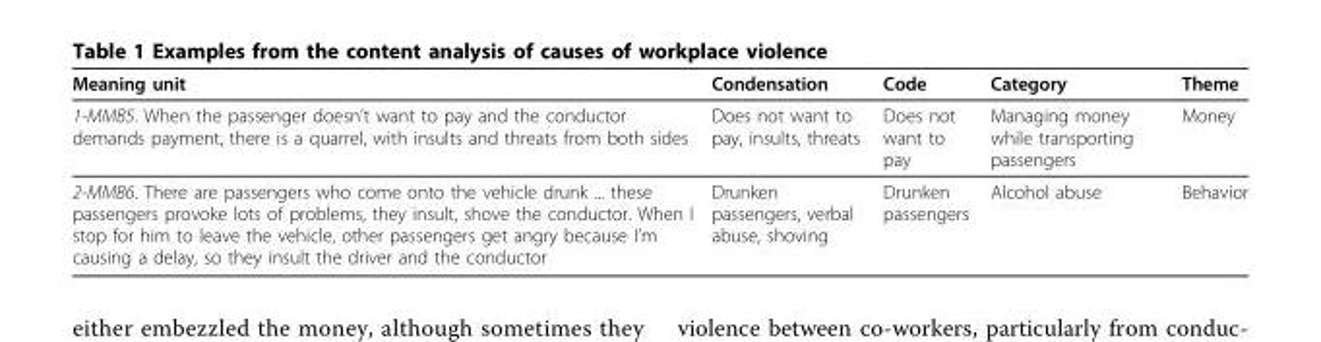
<table><thead><tr><td>Meaning unit</td><td>Condensation</td><td>Code</td><td>Category</td><td>Theme</td></tr></thead><tbody><tr><td>1-MMB5. When the passenger doesn’t want to pay and the conductor demands payment, there is a quarrel, with insults and threats from both sides</td><td>Does not want to pay, insults, threats</td><td>Does not want to pay</td><td>Managing money while transporting passengers</td><td>Money</td></tr><tr><td>2-MMB6. There are passengers who come onto the vehicle drunk ... these passengers provoke lots of problems, they insult, shove the conductor. When I stop for him to leave the vehicle, other passengers get angry because I’m causing a delay, so they insult the driver and the conductor</td><td>Drunken passengers, verbal abuse, shoving</td><td>Drunken passengers</td><td>Alcohol abuse</td><td>Behavior</td></tr></tbody></table>